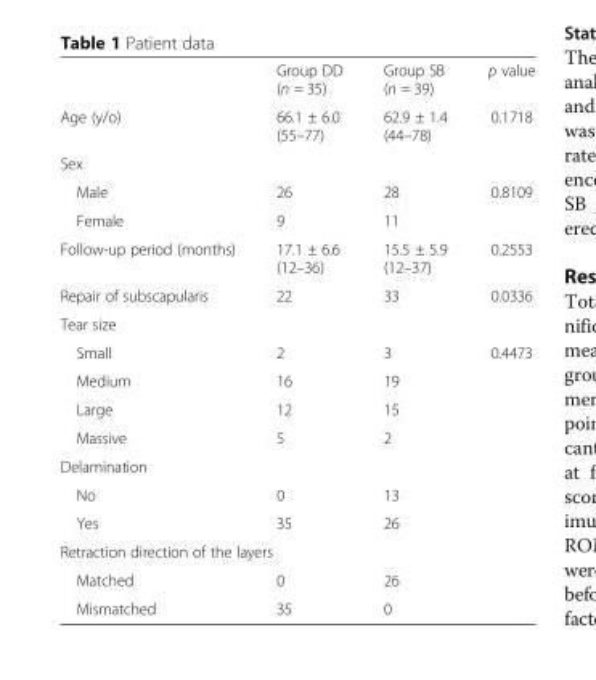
<table><thead><tr><td></td><td>Group DD (n = 35)</td><td>Group SB (n = 39)</td><td>p value</td></tr></thead><tbody><tr><td>Age (y/o)</td><td>66.1 ± 6.0 (55–77)</td><td>62.9 ± 1.4 (44–78)</td><td>0.1718</td></tr><tr><td colspan="4">Sex</td></tr><tr><td>Male</td><td>26</td><td>28</td><td rowspan="2">0.8109</td></tr><tr><td>Female</td><td>9</td><td>11</td></tr><tr><td>Follow-up period (months)</td><td>17.1 ± 6.6 (12–36)</td><td>15.5 ± 5.9 (12–37)</td><td>0.2553</td></tr><tr><td>Repair of subscapularis</td><td>22</td><td>33</td><td>0.0336</td></tr><tr><td colspan="4">Tear size</td></tr><tr><td>Small</td><td>2</td><td>3</td><td>0.4473</td></tr><tr><td>Medium</td><td>16</td><td>19</td><td></td></tr><tr><td>Large</td><td>12</td><td>15</td><td></td></tr><tr><td>Massive</td><td>5</td><td>2</td><td></td></tr><tr><td colspan="4">Delamination</td></tr><tr><td>No</td><td>0</td><td>13</td><td></td></tr><tr><td>Yes</td><td>35</td><td>26</td><td></td></tr><tr><td colspan="4">Retraction direction of the layers</td></tr><tr><td>Matched</td><td>0</td><td>26</td><td></td></tr><tr><td>Mismatched</td><td>35</td><td>0</td><td></td></tr></tbody></table>